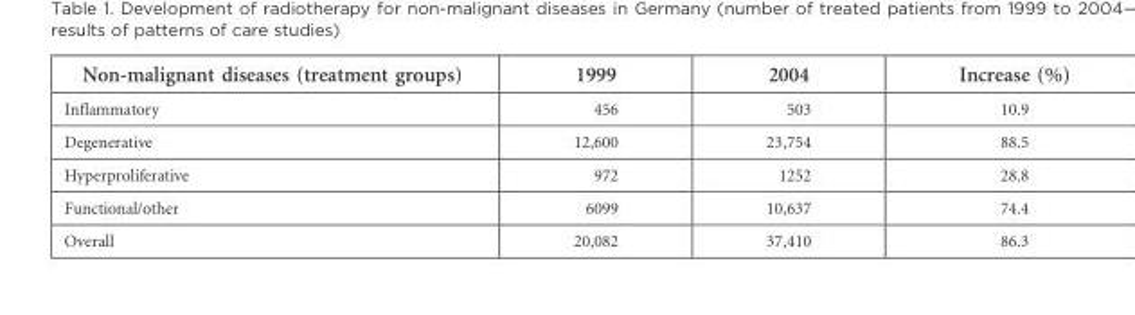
<table><thead><tr><td>Non-malignant diseases (treatment groups)</td><td>1999</td><td>2004</td><td>Increase (%)</td></tr></thead><tbody><tr><td>Inflammatory</td><td>456</td><td>503</td><td>10.9</td></tr><tr><td>Degenerative</td><td>12,600</td><td>23,754</td><td>88.5</td></tr><tr><td>Hyperproliferative</td><td>972</td><td>1252</td><td>28.8</td></tr><tr><td>Functional/other</td><td>6099</td><td>10,637</td><td>74.4</td></tr><tr><td>Overall</td><td>20,082</td><td>37,410</td><td>86.3</td></tr></tbody></table>